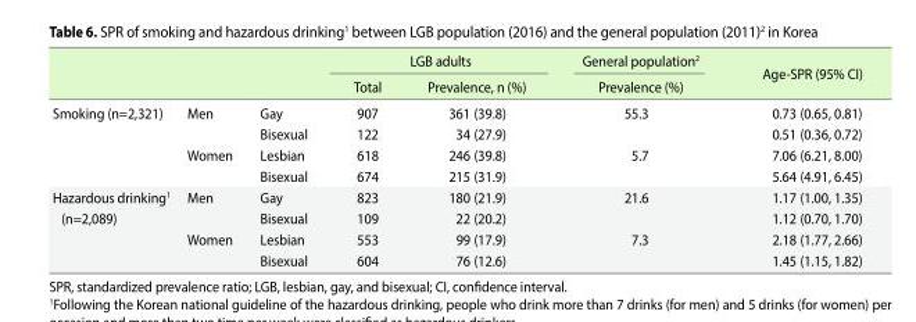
<table><thead><tr><td rowspan="2"></td><td rowspan="2"></td><td rowspan="2"></td><td colspan="2">LGB adults</td><td rowspan="2">General population<sup>2</sup> Prevalence (%)</td><td rowspan="2">Age-SPR (95% CI)</td></tr><tr><td>Total</td><td>Prevalence, n (%)</td></tr></thead><tbody><tr><td rowspan="4">Smoking (n=2,321)</td><td>Men</td><td>Gay</td><td>907</td><td>361 (39.8)</td><td>55.3</td><td>0.73 (0.65, 0.81)</td></tr><tr><td></td><td>Bisexual</td><td>122</td><td>34 (27.9)</td><td></td><td>0.51 (0.36, 0.72)</td></tr><tr><td>Women</td><td>Lesbian</td><td>618</td><td>246 (39.8)</td><td>5.7</td><td>7.06 (6.21, 8.00)</td></tr><tr><td></td><td>Bisexual</td><td>674</td><td>215 (31.9)</td><td></td><td>5.64 (4.91, 6.45)</td></tr><tr><td rowspan="4">Hazardous drinking<sup>1</sup> (n=2,089)</td><td>Men</td><td>Gay</td><td>823</td><td>180 (21.9)</td><td>21.6</td><td>1.17 (1.00, 1.35)</td></tr><tr><td></td><td>Bisexual</td><td>109</td><td>22 (20.2)</td><td></td><td>1.12 (0.70, 1.70)</td></tr><tr><td>Women</td><td>Lesbian</td><td>553</td><td>99 (17.9)</td><td>7.3</td><td>2.18 (1.77, 2.66)</td></tr><tr><td></td><td>Bisexual</td><td>604</td><td>76 (12.6)</td><td></td><td>1.45 (1.15, 1.82)</td></tr></tbody></table>